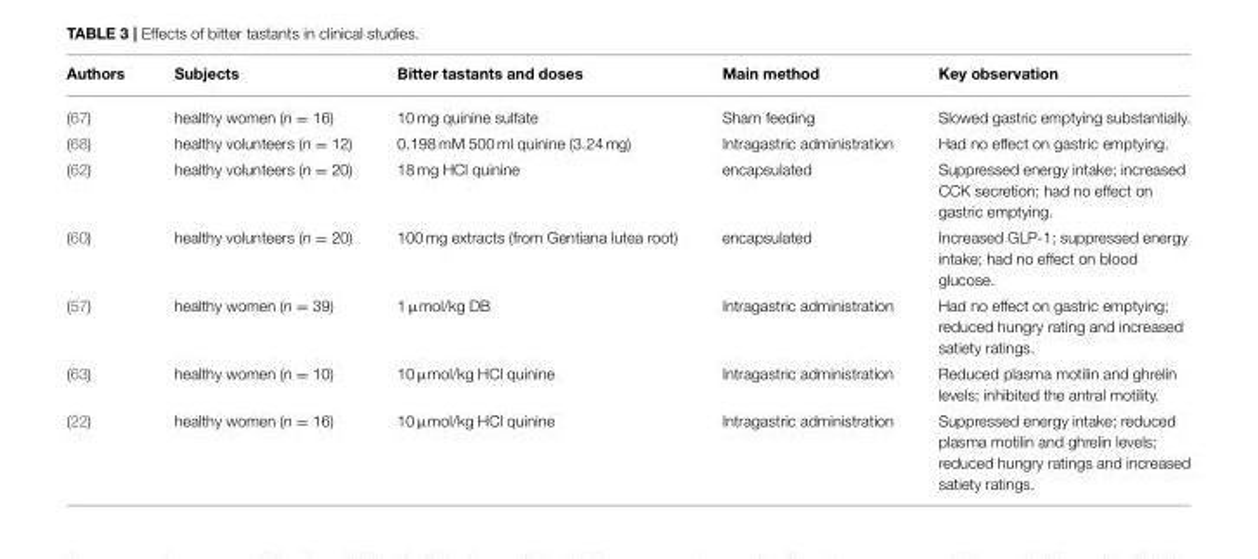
<table><thead><tr><td>Authors</td><td>Subjects</td><td>Bitter tastants and doses</td><td>Main method</td><td>Key observation</td></tr></thead><tbody><tr><td>(67)</td><td>healthy women (n = 16)</td><td>10 mg quinine sulfate</td><td>Sham feeding</td><td>Slowed gastric emptying substantially.</td></tr><tr><td>(68)</td><td>healthy volunteers (n = 12)</td><td>0.198 mM 500 ml quinine (3.24 mg)</td><td>Intragastric administration</td><td>Had no effect on gastric emptying.</td></tr><tr><td>(62)</td><td>healthy volunteers (n = 20)</td><td>18 mg HCl quinine</td><td>encapsulated</td><td>Suppressed energy intake; increased CCK secretion; had no effect on gastric emptying.</td></tr><tr><td>(60)</td><td>healthy volunteers (n = 20)</td><td>100 mg extracts (from Gentiana lutea root)</td><td>encapsulated</td><td>Increased GLP-1; suppressed energy intake; had no effect on blood glucose.</td></tr><tr><td>(57)</td><td>healthy women (n = 39)</td><td>1 µmol/kg DB</td><td>Intragastric administration</td><td>Had no effect on gastric emptying; reduced hungry rating and increased satiety ratings.</td></tr><tr><td>(63)</td><td>healthy women (n = 10)</td><td>10 µmol/kg HCl quinine</td><td>Intragastric administration</td><td>Reduced plasma motilin and ghrelin levels; inhibited the antral motility.</td></tr><tr><td>(22)</td><td>healthy women (n = 16)</td><td>10 µmol/kg HCl quinine</td><td>Intragastric administration</td><td>Suppressed energy intake; reduced plasma motilin and ghrelin levels; reduced hungry ratings and increased satiety ratings.</td></tr></tbody></table>